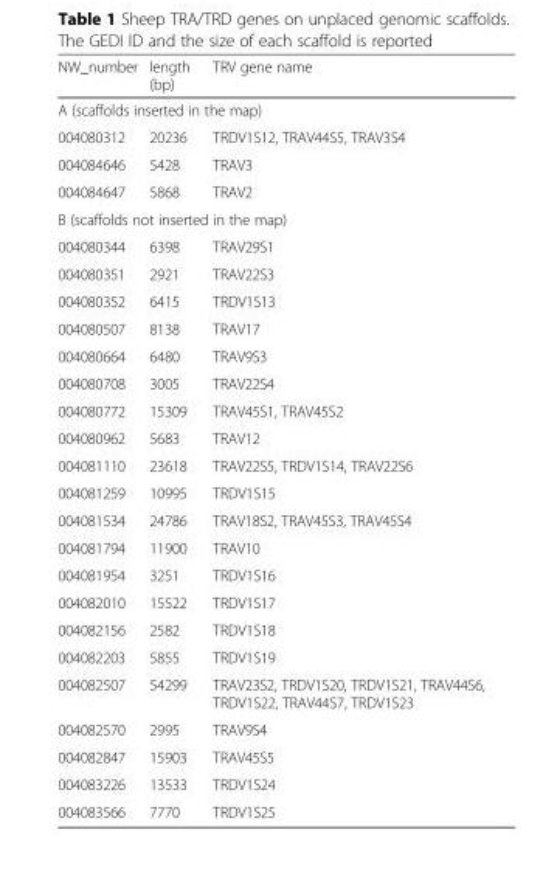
<table><thead><tr><td>NW_number</td><td>length (bp)</td><td>TRV gene name</td></tr></thead><tbody><tr><td colspan="3">A (scaffolds inserted in the map)</td></tr><tr><td>004080312</td><td>20236</td><td>TRDV1S12, TRAV44S5, TRAV3S4</td></tr><tr><td>004084646</td><td>5428</td><td>TRAV3</td></tr><tr><td>004084647</td><td>5868</td><td>TRAV2</td></tr><tr><td colspan="3">B (scaffolds not inserted in the map)</td></tr><tr><td>004080344</td><td>6398</td><td>TRAV29S1</td></tr><tr><td>004080351</td><td>2921</td><td>TRAV22S3</td></tr><tr><td>004080352</td><td>6415</td><td>TRDV1S13</td></tr><tr><td>004080507</td><td>8138</td><td>TRAV17</td></tr><tr><td>004080664</td><td>6480</td><td>TRAV9S3</td></tr><tr><td>004080708</td><td>3005</td><td>TRAV22S4</td></tr><tr><td>004080772</td><td>15309</td><td>TRAV45S1, TRAV45S2</td></tr><tr><td>004080962</td><td>5683</td><td>TRAV12</td></tr><tr><td>004081110</td><td>23618</td><td>TRAV22S5, TRDV1S14, TRAV22S6</td></tr><tr><td>004081259</td><td>10995</td><td>TRDV1S15</td></tr><tr><td>004081534</td><td>24786</td><td>TRAV18S2, TRAV45S3, TRAV45S4</td></tr><tr><td>004081794</td><td>11900</td><td>TRAV10</td></tr><tr><td>004081954</td><td>3251</td><td>TRDV1S16</td></tr><tr><td>004082010</td><td>15522</td><td>TRDV1S17</td></tr><tr><td>004082156</td><td>2582</td><td>TRDV1S18</td></tr><tr><td>004082203</td><td>5855</td><td>TRDV1S19</td></tr><tr><td>004082507</td><td>54299</td><td>TRAV23S2, TRDV1S20, TRDV1S21, TRAV44S6, TRDV1S22, TRAV44S7, TRDV1S23</td></tr><tr><td>004082570</td><td>2995</td><td>TRAV9S4</td></tr><tr><td>004082847</td><td>15903</td><td>TRAV45S5</td></tr><tr><td>004083226</td><td>13533</td><td>TRDV1S24</td></tr><tr><td>004083566</td><td>7770</td><td>TRDV1S25</td></tr></tbody></table>